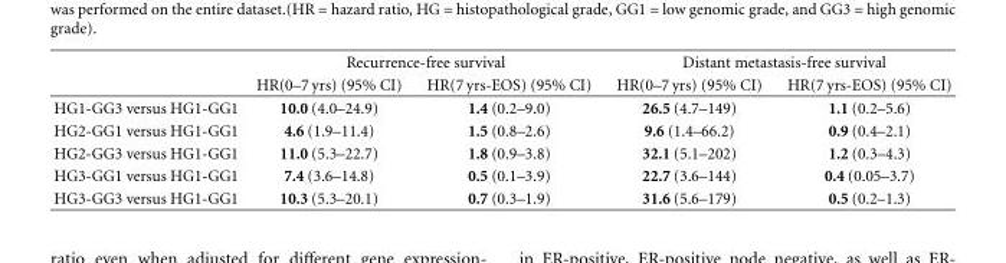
<table><thead><tr><td rowspan="2"></td><td colspan="2">Recurrence-free survival</td><td colspan="2">Distant metastasis-free survival</td></tr><tr><td>HR(0–7 yrs) (95% CI)</td><td>HR(7 yrs-EOS) (95% CI)</td><td>HR(0–7 yrs) (95% CI)</td><td>HR(7 yrs-EOS) (95% CI)</td></tr></thead><tbody><tr><td>HG1-GG3 versus HG1-GG1</td><td>10.0 (4.0–24.9)</td><td>1.4 (0.2–9.0)</td><td>26.5 (4.7–149)</td><td>1.1 (0.2–5.6)</td></tr><tr><td>HG2-GG1 versus HG1-GG1</td><td>4.6 (1.9–11.4)</td><td>1.5 (0.8–2.6)</td><td>9.6 (1.4–66.2)</td><td>0.9 (0.4–2.1)</td></tr><tr><td>HG2-GG3 versus HG1-GG1</td><td>11.0 (5.3–22.7)</td><td>1.8 (0.9–3.8)</td><td>32.1 (5.1–202)</td><td>1.2 (0.3–4.3)</td></tr><tr><td>HG3-GG1 versus HG1-GG1</td><td>7.4 (3.6–14.8)</td><td>0.5 (0.1–3.9)</td><td>22.7 (3.6–144)</td><td>0.4 (0.05–3.7)</td></tr><tr><td>HG3-GG3 versus HG1-GG1</td><td>10.3 (5.3–20.1)</td><td>0.7 (0.3–1.9)</td><td>31.6 (5.6–179)</td><td>0.5 (0.2–1.3)</td></tr></tbody></table>